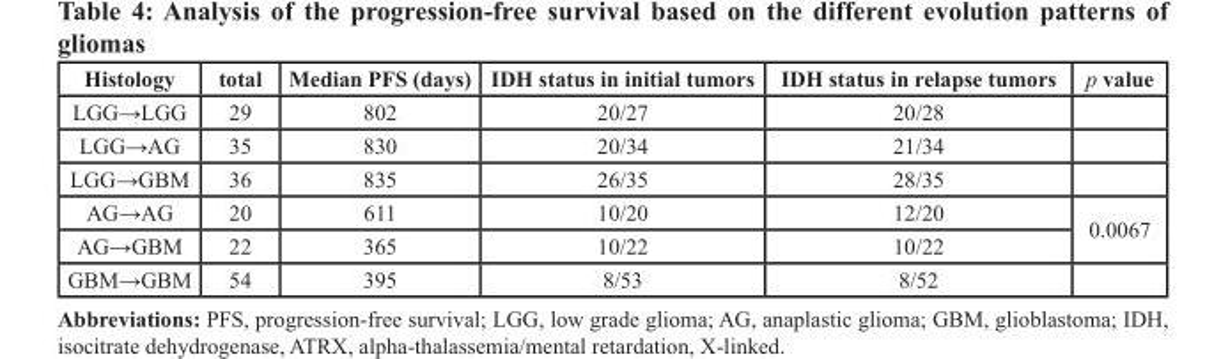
<table><thead><tr><td>Histology</td><td>total</td><td>Median PFS (days)</td><td>IDH status in initial tumors</td><td>IDH status in relapse tumors</td><td>p value</td></tr></thead><tbody><tr><td>LGG→LGG</td><td>29</td><td>802</td><td>20/27</td><td>20/28</td><td></td></tr><tr><td>LGG→AG</td><td>35</td><td>830</td><td>20/34</td><td>21/34</td><td></td></tr><tr><td>LGG→GBM</td><td>36</td><td>835</td><td>26/35</td><td>28/35</td><td></td></tr><tr><td>AG→AG</td><td>20</td><td>611</td><td>10/20</td><td>12/20</td><td rowspan="2">0.0067</td></tr><tr><td>AG→GBM</td><td>22</td><td>365</td><td>10/22</td><td>10/22</td></tr><tr><td>GBM→GBM</td><td>54</td><td>395</td><td>8/53</td><td>8/52</td><td></td></tr></tbody></table>